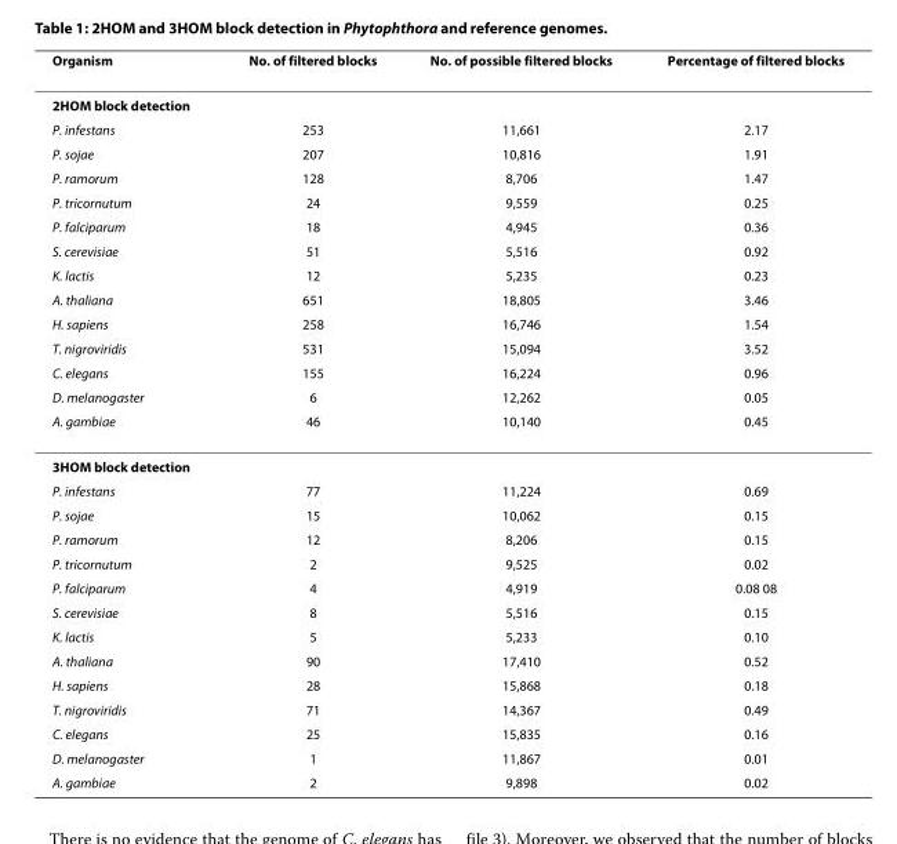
<table><thead><tr><td>Organism</td><td>No. of filtered blocks</td><td>No. of possible filtered blocks</td><td>Percentage of filtered blocks</td></tr></thead><tbody><tr><td colspan="4">2HOM block detection</td></tr><tr><td>P. infestans</td><td>253</td><td>11,661</td><td>2.17</td></tr><tr><td>P. sojae</td><td>207</td><td>10,816</td><td>1.91</td></tr><tr><td>P. ramorum</td><td>128</td><td>8,706</td><td>1.47</td></tr><tr><td>P. tricornutum</td><td>24</td><td>9,559</td><td>0.25</td></tr><tr><td>P. falciparum</td><td>18</td><td>4,945</td><td>0.36</td></tr><tr><td>S. cerevisiae</td><td>51</td><td>5,516</td><td>0.92</td></tr><tr><td>K. lactis</td><td>12</td><td>5,235</td><td>0.23</td></tr><tr><td>A. thaliana</td><td>651</td><td>18,805</td><td>3.46</td></tr><tr><td>H. sapiens</td><td>258</td><td>16,746</td><td>1.54</td></tr><tr><td>T. nigroviridis</td><td>531</td><td>15,094</td><td>3.52</td></tr><tr><td>C. elegans</td><td>155</td><td>16,224</td><td>0.96</td></tr><tr><td>D. melanogaster</td><td>6</td><td>12,262</td><td>0.05</td></tr><tr><td>A. gambiae</td><td>46</td><td>10,140</td><td>0.45</td></tr><tr><td colspan="4">3HOM block detection</td></tr><tr><td>P. infestans</td><td>77</td><td>11,224</td><td>0.69</td></tr><tr><td>P. sojae</td><td>15</td><td>10,062</td><td>0.15</td></tr><tr><td>P. ramorum</td><td>12</td><td>8,206</td><td>0.15</td></tr><tr><td>P. tricornutum</td><td>2</td><td>9,525</td><td>0.02</td></tr><tr><td>P. falciparum</td><td>4</td><td>4,919</td><td>0.08 08</td></tr><tr><td>S. cerevisiae</td><td>8</td><td>5,516</td><td>0.15</td></tr><tr><td>K. lactis</td><td>5</td><td>5,233</td><td>0.10</td></tr><tr><td>A. thaliana</td><td>90</td><td>17,410</td><td>0.52</td></tr><tr><td>H. sapiens</td><td>28</td><td>15,868</td><td>0.18</td></tr><tr><td>T. nigroviridis</td><td>71</td><td>14,367</td><td>0.49</td></tr><tr><td>C. elegans</td><td>25</td><td>15,835</td><td>0.16</td></tr><tr><td>D. melanogaster</td><td>1</td><td>11,867</td><td>0.01</td></tr><tr><td>A. gambiae</td><td>2</td><td>9,898</td><td>0.02</td></tr></tbody></table>